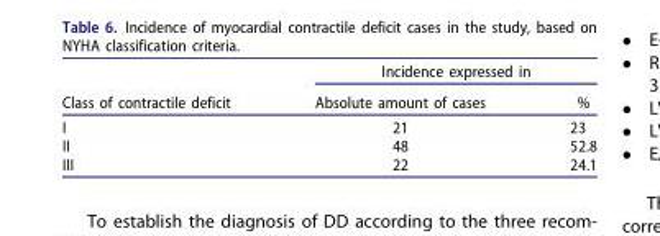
<table><thead><tr><td rowspan="2">Class of contractile deficit</td><td colspan="2">Incidence expressed in</td></tr><tr><td>Absolute amount of cases</td><td>%</td></tr></thead><tbody><tr><td>I</td><td>21</td><td>23</td></tr><tr><td>II</td><td>48</td><td>52.8</td></tr><tr><td>III</td><td>22</td><td>24.1</td></tr></tbody></table>